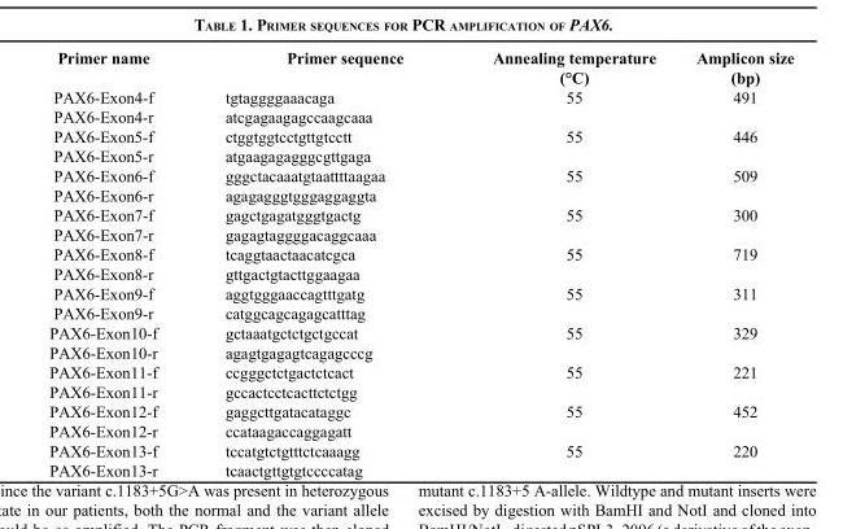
<table><thead><tr><td>Primer name</td><td>Primer sequence</td><td>Annealing temperature (°C)</td><td>Amplicon size (bp)</td></tr></thead><tbody><tr><td>PAX6-Exon4-f</td><td>tgtaggggaaacaga</td><td>55</td><td>491</td></tr><tr><td>PAX6-Exon4-r</td><td>atcgagaagagccaagcaaa</td><td></td><td></td></tr><tr><td>PAX6-Exon5-f</td><td>ctggtggtcctgttgtcctt</td><td>55</td><td>446</td></tr><tr><td>PAX6-Exon5-r</td><td>atgaagagagggcgttgaga</td><td></td><td></td></tr><tr><td>PAX6-Exon6-f</td><td>gggctacaaatgtaattttaagaa</td><td>55</td><td>509</td></tr><tr><td>PAX6-Exon6-r</td><td>agagagggtgggaggaggta</td><td></td><td></td></tr><tr><td>PAX6-Exon7-f</td><td>gagctgagatgggtgactg</td><td>55</td><td>300</td></tr><tr><td>PAX6-Exon7-r</td><td>gagagtaggggacaggcaaa</td><td></td><td></td></tr><tr><td>PAX6-Exon8-f</td><td>tcaggtaactaacatcgca</td><td>55</td><td>719</td></tr><tr><td>PAX6-Exon8-r</td><td>gttgactgtacttggaagaa</td><td></td><td></td></tr><tr><td>PAX6-Exon9-f</td><td>aggtgggaaccagtttgatg</td><td>55</td><td>311</td></tr><tr><td>PAX6-Exon9-r</td><td>catggcagcagagcatttag</td><td></td><td></td></tr><tr><td>PAX6-Exon10-f</td><td>gctaaatgctctgctgccat</td><td>55</td><td>329</td></tr><tr><td>PAX6-Exon10-r</td><td>agagtgagagtcagagcccg</td><td></td><td></td></tr><tr><td>PAX6-Exon11-f</td><td>ccgggctctgactctcact</td><td>55</td><td>221</td></tr><tr><td>PAX6-Exon11-r</td><td>gccactcctcacttctctgg</td><td></td><td></td></tr><tr><td>PAX6-Exon12-f</td><td>gaggcttgatacataggc</td><td>55</td><td>452</td></tr><tr><td>PAX6-Exon12-r</td><td>ccataagaccaggagatt</td><td></td><td></td></tr><tr><td>PAX6-Exon13-f</td><td>tccatgtctgtttctcaaagg</td><td>55</td><td>220</td></tr><tr><td>PAX6-Exon13-r</td><td>tcaactgttgtgtccccatag</td><td></td><td></td></tr></tbody></table>